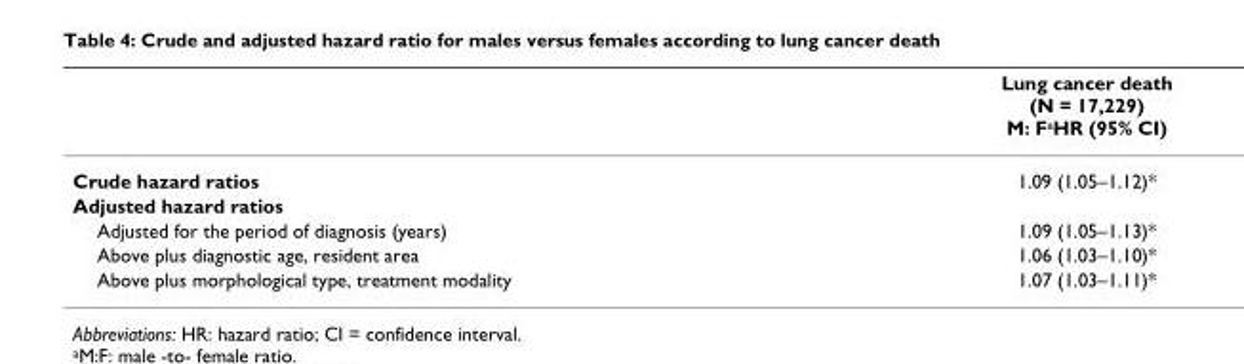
<table><thead><tr><td></td><td>Lung cancer death (N = 17,229) M: F<sup>a</sup>HR (95% CI)</td></tr></thead><tbody><tr><td>Crude hazard ratios</td><td>1.09 (1.05–1.12)*</td></tr><tr><td colspan="2">Adjusted hazard ratios</td></tr><tr><td>Adjusted for the period of diagnosis (years)</td><td>1.09 (1.05–1.13)*</td></tr><tr><td>Above plus diagnostic age, resident area</td><td>1.06 (1.03–1.10)*</td></tr><tr><td>Above plus morphological type, treatment modality</td><td>1.07 (1.03–1.11)*</td></tr></tbody></table>